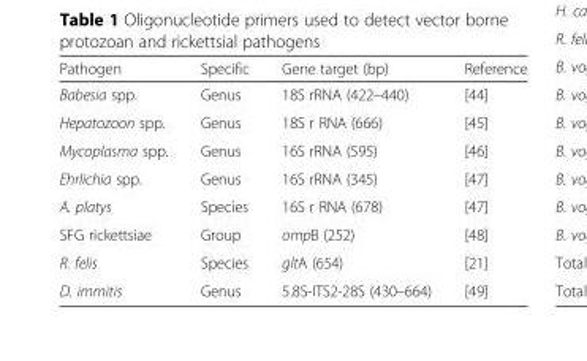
<table><thead><tr><td>Pathogen</td><td>Specific</td><td>Gene target (bp)</td><td>Reference</td></tr></thead><tbody><tr><td>Babesia spp.</td><td>Genus</td><td>18S rRNA (422–440)</td><td>[44]</td></tr><tr><td>Hepatozoon spp.</td><td>Genus</td><td>18S r RNA (666)</td><td>[45]</td></tr><tr><td>Mycoplasma spp.</td><td>Genus</td><td>16S rRNA (595)</td><td>[46]</td></tr><tr><td>Ehrlichia spp.</td><td>Genus</td><td>16S rRNA (345)</td><td>[47]</td></tr><tr><td>A. platys</td><td>Species</td><td>16S r RNA (678)</td><td>[47]</td></tr><tr><td>SFG rickettsiae</td><td>Group</td><td>ompB (252)</td><td>[48]</td></tr><tr><td>R. felis</td><td>Species</td><td>gltA (654)</td><td>[21]</td></tr><tr><td>D. immitis</td><td>Genus</td><td>5.8S-ITS2-28S (430–664)</td><td>[49]</td></tr></tbody></table>